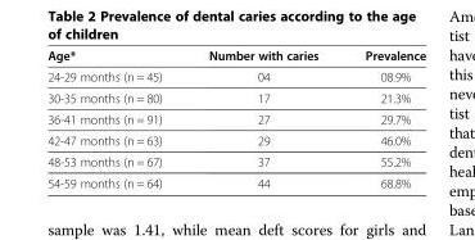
<table><thead><tr><td>Age*</td><td>Number with caries</td><td>Prevalence</td></tr></thead><tbody><tr><td>24-29 months (n = 45)</td><td>04</td><td>08.9%</td></tr><tr><td>30-35 months (n = 80)</td><td>17</td><td>21.3%</td></tr><tr><td>36-41 months (n = 91)</td><td>27</td><td>29.7%</td></tr><tr><td>42-47 months (n = 63)</td><td>29</td><td>46.0%</td></tr><tr><td>48-53 months (n = 67)</td><td>37</td><td>55.2%</td></tr><tr><td>54-59 months (n = 64)</td><td>44</td><td>68.8%</td></tr></tbody></table>